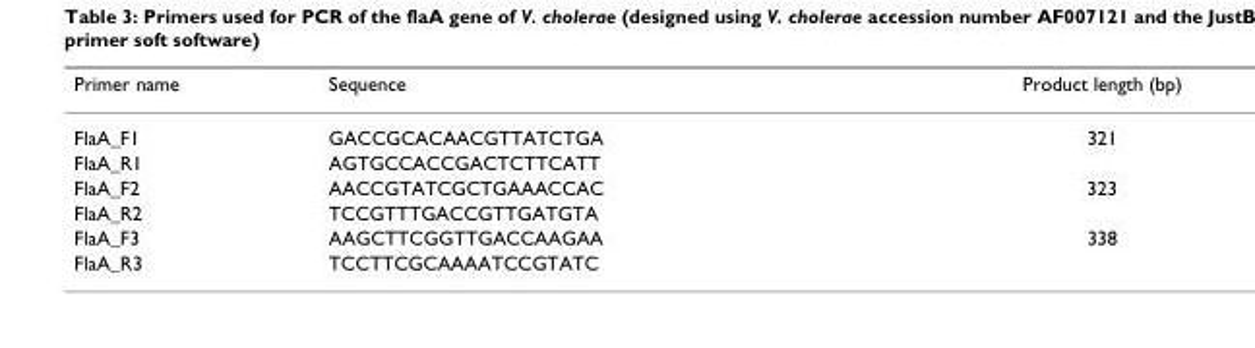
<table><thead><tr><td>Primer name</td><td>Sequence</td><td>Product length (bp)</td></tr></thead><tbody><tr><td>FlaA_F1</td><td>GACCGCACAACGTTATCTGA</td><td>321</td></tr><tr><td>FlaA_R1</td><td>AGTGCCACCGACTCTTCATT</td><td></td></tr><tr><td>FlaA_F2</td><td>AACCGTATCGCTGAAACCAC</td><td>323</td></tr><tr><td>FlaA_R2</td><td>TCCGTTTGACCGTTGATGTA</td><td></td></tr><tr><td>FlaA_F3</td><td>AAGCTTCGGTTGACCAAGAA</td><td>338</td></tr><tr><td>FlaA_R3</td><td>TCCTTCGCAAAATCCGTATC</td><td></td></tr></tbody></table>